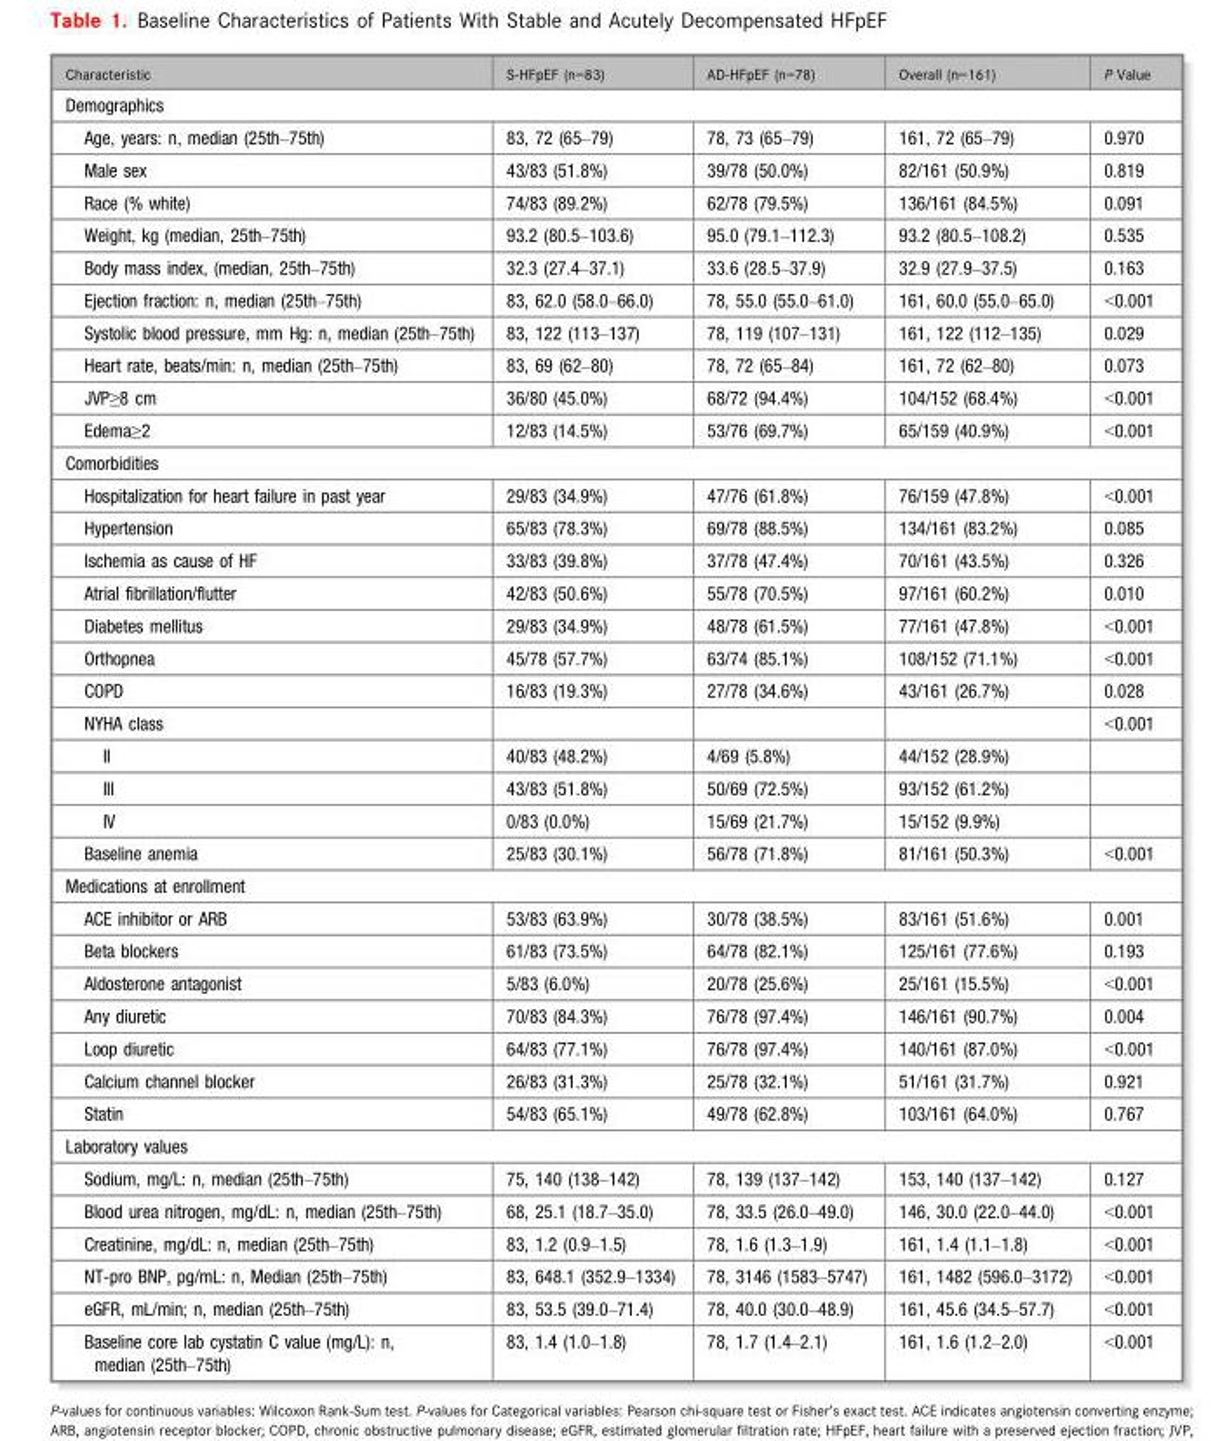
<table><thead><tr><td>Characteristic</td><td>S-HFpEF (n=83)</td><td>AD-HFpEF (n=78)</td><td>Overall (n=161)</td><td>P Value</td></tr></thead><tbody><tr><td colspan="5">Demographics</td></tr><tr><td>Age, years: n, median (25th–75th)</td><td>83, 72 (65–79)</td><td>78, 73 (65–79)</td><td>161, 72 (65–79)</td><td>0.970</td></tr><tr><td>Male sex</td><td>43/83 (51.8%)</td><td>39/78 (50.0%)</td><td>82/161 (50.9%)</td><td>0.819</td></tr><tr><td>Race (% white)</td><td>74/83 (89.2%)</td><td>62/78 (79.5%)</td><td>136/161 (84.5%)</td><td>0.091</td></tr><tr><td>Weight, kg (median, 25th–75th)</td><td>93.2 (80.5–103.6)</td><td>95.0 (79.1–112.3)</td><td>93.2 (80.5–108.2)</td><td>0.535</td></tr><tr><td>Body mass index, (median, 25th–75th)</td><td>32.3 (27.4–37.1)</td><td>33.6 (28.5–37.9)</td><td>32.9 (27.9–37.5)</td><td>0.163</td></tr><tr><td>Ejection fraction: n, median (25th–75th)</td><td>83, 62.0 (58.0–66.0)</td><td>78, 55.0 (55.0–61.0)</td><td>161, 60.0 (55.0–65.0)</td><td>&lt;0.001</td></tr><tr><td>Systolic blood pressure, mm Hg: n, median (25th–75th)</td><td>83, 122 (113–137)</td><td>78, 119 (107–131)</td><td>161, 122 (112–135)</td><td>0.029</td></tr><tr><td>Heart rate, beats/min: n, median (25th–75th)</td><td>83, 69 (62–80)</td><td>78, 72 (65–84)</td><td>161, 72 (62–80)</td><td>0.073</td></tr><tr><td>JVP≥8 cm</td><td>36/80 (45.0%)</td><td>68/72 (94.4%)</td><td>104/152 (68.4%)</td><td>&lt;0.001</td></tr><tr><td>Edema≥2</td><td>12/83 (14.5%)</td><td>53/76 (69.7%)</td><td>65/159 (40.9%)</td><td>&lt;0.001</td></tr><tr><td colspan="5">Comorbidities</td></tr><tr><td>Hospitalization for heart failure in past year</td><td>29/83 (34.9%)</td><td>47/76 (61.8%)</td><td>76/159 (47.8%)</td><td>&lt;0.001</td></tr><tr><td>Hypertension</td><td>65/83 (78.3%)</td><td>69/78 (88.5%)</td><td>134/161 (83.2%)</td><td>0.085</td></tr><tr><td>Ischemia as cause of HF</td><td>33/83 (39.8%)</td><td>37/78 (47.4%)</td><td>70/161 (43.5%)</td><td>0.326</td></tr><tr><td>Atrial fibrillation/flutter</td><td>42/83 (50.6%)</td><td>55/78 (70.5%)</td><td>97/161 (60.2%)</td><td>0.010</td></tr><tr><td>Diabetes mellitus</td><td>29/83 (34.9%)</td><td>48/78 (61.5%)</td><td>77/161 (47.8%)</td><td>&lt;0.001</td></tr><tr><td>Orthopnea</td><td>45/78 (57.7%)</td><td>63/74 (85.1%)</td><td>108/152 (71.1%)</td><td>&lt;0.001</td></tr><tr><td>COPD</td><td>16/83 (19.3%)</td><td>27/78 (34.6%)</td><td>43/161 (26.7%)</td><td>0.028</td></tr><tr><td>NYHA class</td><td></td><td></td><td></td><td>&lt;0.001</td></tr><tr><td>II</td><td>40/83 (48.2%)</td><td>4/69 (5.8%)</td><td>44/152 (28.9%)</td><td></td></tr><tr><td>III</td><td>43/83 (51.8%)</td><td>50/69 (72.5%)</td><td>93/152 (61.2%)</td><td></td></tr><tr><td>IV</td><td>0/83 (0.0%)</td><td>15/69 (21.7%)</td><td>15/152 (9.9%)</td><td></td></tr><tr><td>Baseline anemia</td><td>25/83 (30.1%)</td><td>56/78 (71.8%)</td><td>81/161 (50.3%)</td><td>&lt;0.001</td></tr><tr><td colspan="5">Medications at enrollment</td></tr><tr><td>ACE inhibitor or ARB</td><td>53/83 (63.9%)</td><td>30/78 (38.5%)</td><td>83/161 (51.6%)</td><td>0.001</td></tr><tr><td>Beta blockers</td><td>61/83 (73.5%)</td><td>64/78 (82.1%)</td><td>125/161 (77.6%)</td><td>0.193</td></tr><tr><td>Aldosterone antagonist</td><td>5/83 (6.0%)</td><td>20/78 (25.6%)</td><td>25/161 (15.5%)</td><td>&lt;0.001</td></tr><tr><td>Any diuretic</td><td>70/83 (84.3%)</td><td>76/78 (97.4%)</td><td>146/161 (90.7%)</td><td>0.004</td></tr><tr><td>Loop diuretic</td><td>64/83 (77.1%)</td><td>76/78 (97.4%)</td><td>140/161 (87.0%)</td><td>&lt;0.001</td></tr><tr><td>Calcium channel blocker</td><td>26/83 (31.3%)</td><td>25/78 (32.1%)</td><td>51/161 (31.7%)</td><td>0.921</td></tr><tr><td>Statin</td><td>54/83 (65.1%)</td><td>49/78 (62.8%)</td><td>103/161 (64.0%)</td><td>0.767</td></tr><tr><td colspan="5">Laboratory values</td></tr><tr><td>Sodium, mg/L: n, median (25th–75th)</td><td>75, 140 (138–142)</td><td>78, 139 (137–142)</td><td>153, 140 (137–142)</td><td>0.127</td></tr><tr><td>Blood urea nitrogen, mg/dL: n, median (25th–75th)</td><td>68, 25.1 (18.7–35.0)</td><td>78, 33.5 (26.0–49.0)</td><td>146, 30.0 (22.0–44.0)</td><td>&lt;0.001</td></tr><tr><td>Creatinine, mg/dL: n, median (25th–75th)</td><td>83, 1.2 (0.9–1.5)</td><td>78, 1.6 (1.3–1.9)</td><td>161, 1.4 (1.1–1.8)</td><td>&lt;0.001</td></tr><tr><td>NT-pro BNP, pg/mL: n, Median (25th–75th)</td><td>83, 648.1 (352.9–1334)</td><td>78, 3146 (1583–5747)</td><td>161, 1482 (596.0–3172)</td><td>&lt;0.001</td></tr><tr><td>eGFR, mL/min; n, median (25th–75th)</td><td>83, 53.5 (39.0–71.4)</td><td>78, 40.0 (30.0–48.9)</td><td>161, 45.6 (34.5–57.7)</td><td>&lt;0.001</td></tr><tr><td>Baseline core lab cystatin C value (mg/L): n, median (25th–75th)</td><td>83, 1.4 (1.0–1.8)</td><td>78, 1.7 (1.4–2.1)</td><td>161, 1.6 (1.2–2.0)</td><td>&lt;0.001</td></tr></tbody></table>